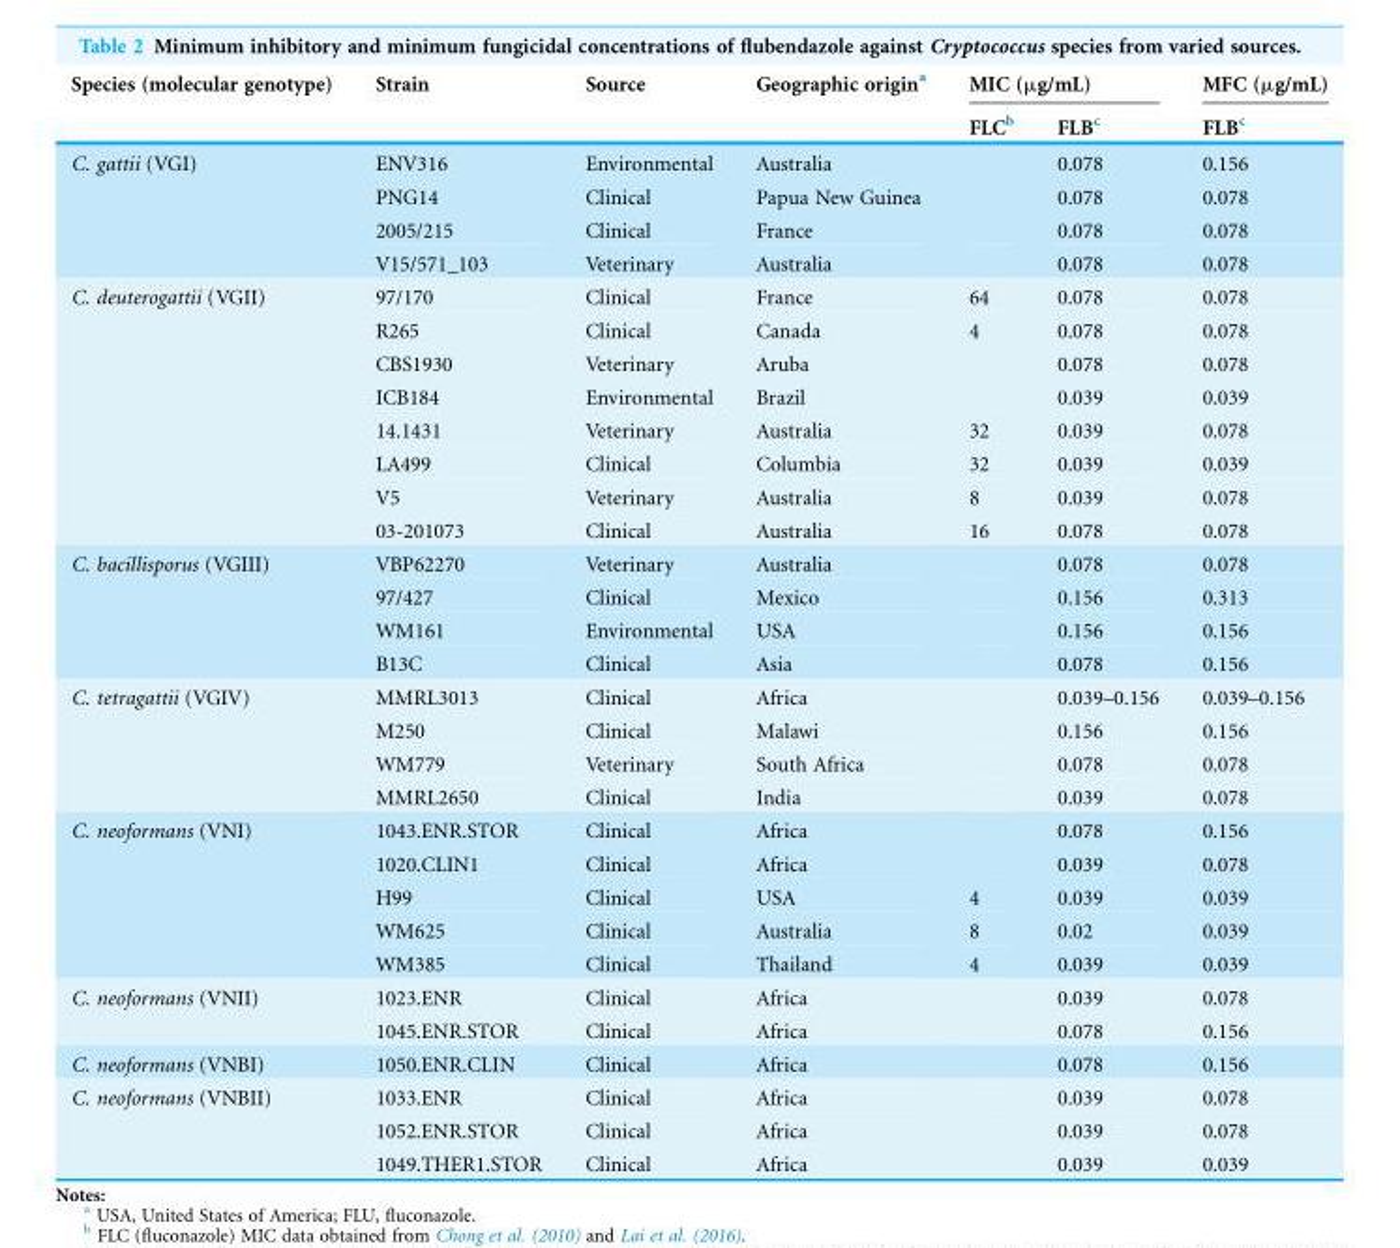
<table><thead><tr><td rowspan="2">Species (molecular genotype)</td><td rowspan="2">Strain</td><td rowspan="2">Source</td><td rowspan="2">Geographic origin<sup>a</sup></td><td colspan="2">MIC (μg/mL)</td><td rowspan="2">MFC (μg/mL) FLB<sup>c</sup></td></tr><tr><td>FLC<sup>b</sup></td><td>FLB<sup>c</sup></td></tr></thead><tbody><tr><td rowspan="4">C. gattii (VGI)</td><td>ENV316</td><td>Environmental</td><td>Australia</td><td></td><td>0.078</td><td>0.156</td></tr><tr><td>PNG14</td><td>Clinical</td><td>Papua New Guinea</td><td></td><td>0.078</td><td>0.078</td></tr><tr><td>2005/215</td><td>Clinical</td><td>France</td><td></td><td>0.078</td><td>0.078</td></tr><tr><td>V15/571_103</td><td>Veterinary</td><td>Australia</td><td></td><td>0.078</td><td>0.078</td></tr><tr><td rowspan="8">C. deuterogattii (VGII)</td><td>97/170</td><td>Clinical</td><td>France</td><td>64</td><td>0.078</td><td>0.078</td></tr><tr><td>R265</td><td>Clinical</td><td>Canada</td><td>4</td><td>0.078</td><td>0.078</td></tr><tr><td>CBS1930</td><td>Veterinary</td><td>Aruba</td><td></td><td>0.078</td><td>0.078</td></tr><tr><td>ICB184</td><td>Environmental</td><td>Brazil</td><td></td><td>0.039</td><td>0.039</td></tr><tr><td>14.1431</td><td>Veterinary</td><td>Australia</td><td>32</td><td>0.039</td><td>0.078</td></tr><tr><td>LA499</td><td>Clinical</td><td>Columbia</td><td>32</td><td>0.039</td><td>0.039</td></tr><tr><td>V5</td><td>Veterinary</td><td>Australia</td><td>8</td><td>0.039</td><td>0.078</td></tr><tr><td>03-201073</td><td>Clinical</td><td>Australia</td><td>16</td><td>0.078</td><td>0.078</td></tr><tr><td rowspan="4">C. bacillisporus (VGIII)</td><td>VBP62270</td><td>Veterinary</td><td>Australia</td><td></td><td>0.078</td><td>0.078</td></tr><tr><td>97/427</td><td>Clinical</td><td>Mexico</td><td></td><td>0.156</td><td>0.313</td></tr><tr><td>WM161</td><td>Environmental</td><td>USA</td><td></td><td>0.156</td><td>0.156</td></tr><tr><td>B13C</td><td>Clinical</td><td>Asia</td><td></td><td>0.078</td><td>0.156</td></tr><tr><td rowspan="4">C. tetragattii (VGIV)</td><td>MMRL3013</td><td>Clinical</td><td>Africa</td><td></td><td>0.039–0.156</td><td>0.039–0.156</td></tr><tr><td>M250</td><td>Clinical</td><td>Malawi</td><td></td><td>0.156</td><td>0.156</td></tr><tr><td>WM779</td><td>Veterinary</td><td>South Africa</td><td></td><td>0.078</td><td>0.078</td></tr><tr><td>MMRL2650</td><td>Clinical</td><td>India</td><td></td><td>0.039</td><td>0.078</td></tr><tr><td rowspan="5">C. neoformans (VNI)</td><td>1043.ENR.STOR</td><td>Clinical</td><td>Africa</td><td></td><td>0.078</td><td>0.156</td></tr><tr><td>1020.CLIN1</td><td>Clinical</td><td>Africa</td><td></td><td>0.039</td><td>0.078</td></tr><tr><td>H99</td><td>Clinical</td><td>USA</td><td>4</td><td>0.039</td><td>0.039</td></tr><tr><td>WM625</td><td>Clinical</td><td>Australia</td><td>8</td><td>0.02</td><td>0.039</td></tr><tr><td>WM385</td><td>Clinical</td><td>Thailand</td><td>4</td><td>0.039</td><td>0.039</td></tr><tr><td rowspan="2">C. neoformans (VNII)</td><td>1023.ENR</td><td>Clinical</td><td>Africa</td><td></td><td>0.039</td><td>0.078</td></tr><tr><td>1045.ENR.STOR</td><td>Clinical</td><td>Africa</td><td></td><td>0.078</td><td>0.156</td></tr><tr><td>C. neoformans (VNBI)</td><td>1050.ENR.CLIN</td><td>Clinical</td><td>Africa</td><td></td><td>0.078</td><td>0.156</td></tr><tr><td rowspan="3">C. neoformans (VNBII)</td><td>1033.ENR</td><td>Clinical</td><td>Africa</td><td></td><td>0.039</td><td>0.078</td></tr><tr><td>1052.ENR.STOR</td><td>Clinical</td><td>Africa</td><td></td><td>0.039</td><td>0.078</td></tr><tr><td>1049.THER1.STOR</td><td>Clinical</td><td>Africa</td><td></td><td>0.039</td><td>0.039</td></tr></tbody></table>